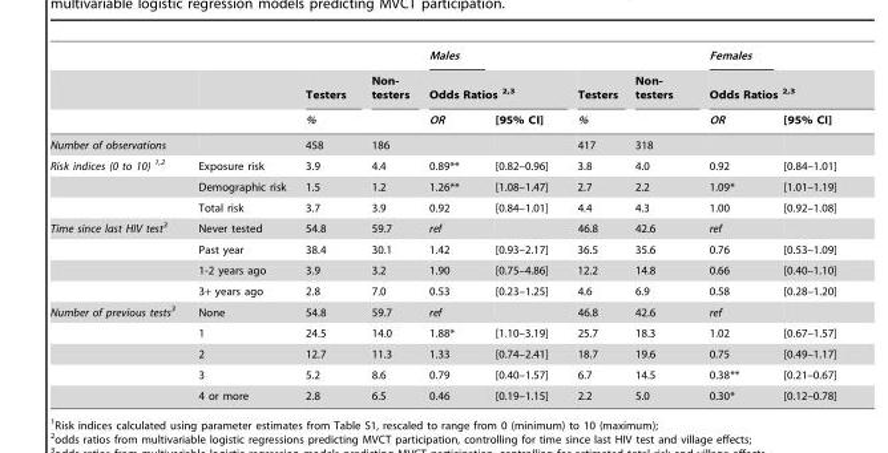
<table><thead><tr><td rowspan="3"></td><td rowspan="3"></td><td rowspan="2">Testers</td><td rowspan="2">Non- testers</td><td>Males</td><td></td><td rowspan="2">Testers</td><td rowspan="2">Non- testers</td><td>Females</td><td></td></tr><tr><td colspan="2">Odds Ratios 2,3</td><td colspan="2">Odds Ratios 2,3</td></tr><tr><td colspan="2">%</td><td>OR</td><td>[95% CI]</td><td colspan="2">%</td><td>OR</td><td>[95% CI]</td></tr></thead><tbody><tr><td>Number of observations</td><td></td><td>458</td><td>186</td><td></td><td></td><td>417</td><td>318</td><td></td><td></td></tr><tr><td rowspan="3">Risk indices (0 to 10) 1,2</td><td>Exposure risk</td><td>3.9</td><td>4.4</td><td>0.89**</td><td>[0.82–0.96]</td><td>3.8</td><td>4.0</td><td>0.92</td><td>[0.84–1.01]</td></tr><tr><td>Demographic risk</td><td>1.5</td><td>1.2</td><td>1.26**</td><td>[1.08–1.47]</td><td>2.7</td><td>2.2</td><td>1.09*</td><td>[1.01–1.19]</td></tr><tr><td>Total risk</td><td>3.7</td><td>3.9</td><td>0.92</td><td>[0.84–1.01]</td><td>4.4</td><td>4.3</td><td>1.00</td><td>[0.92–1.08]</td></tr><tr><td rowspan="4">Time since last HIV test3</td><td>Never tested</td><td>54.8</td><td>59.7</td><td>ref</td><td></td><td>46.8</td><td>42.6</td><td>ref</td><td></td></tr><tr><td>Past year</td><td>38.4</td><td>30.1</td><td>1.42</td><td>[0.93–2.17]</td><td>36.5</td><td>35.6</td><td>0.76</td><td>[0.53–1.09]</td></tr><tr><td>1-2 years ago</td><td>3.9</td><td>3.2</td><td>1.90</td><td>[0.75–4.86]</td><td>12.2</td><td>14.8</td><td>0.66</td><td>[0.40–1.10]</td></tr><tr><td>3+ years ago</td><td>2.8</td><td>7.0</td><td>0.53</td><td>[0.23–1.25]</td><td>4.6</td><td>6.9</td><td>0.58</td><td>[0.28–1.20]</td></tr><tr><td rowspan="5">Number of previous tests3</td><td>None</td><td>54.8</td><td>59.7</td><td>ref</td><td></td><td>46.8</td><td>42.6</td><td>ref</td><td></td></tr><tr><td>1</td><td>24.5</td><td>14.0</td><td>1.88*</td><td>[1.10–3.19]</td><td>25.7</td><td>18.3</td><td>1.02</td><td>[0.67–1.57]</td></tr><tr><td>2</td><td>12.7</td><td>11.3</td><td>1.33</td><td>[0.74–2.41]</td><td>18.7</td><td>19.6</td><td>0.75</td><td>[0.49–1.17]</td></tr><tr><td>3</td><td>5.2</td><td>8.6</td><td>0.79</td><td>[0.40–1.57]</td><td>6.7</td><td>14.5</td><td>0.38**</td><td>[0.21–0.67]</td></tr><tr><td>4 or more</td><td>2.8</td><td>6.5</td><td>0.46</td><td>[0.19–1.15]</td><td>2.2</td><td>5.0</td><td>0.30*</td><td>[0.12–0.78]</td></tr></tbody></table>